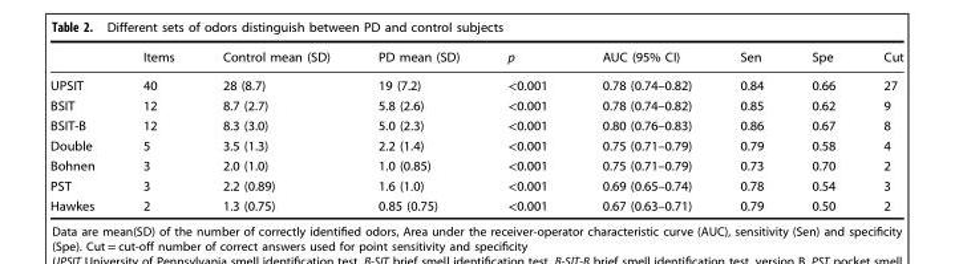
<table><thead><tr><td></td><td>Items</td><td>Control mean (SD)</td><td>PD mean (SD)</td><td>p</td><td>AUC (95% CI)</td><td>Sen</td><td>Spe</td><td>Cut</td></tr></thead><tbody><tr><td>UPSIT</td><td>40</td><td>28 (8.7)</td><td>19 (7.2)</td><td>&lt;0.001</td><td>0.78 (0.74–0.82)</td><td>0.84</td><td>0.66</td><td>27</td></tr><tr><td>BSIT</td><td>12</td><td>8.7 (2.7)</td><td>5.8 (2.6)</td><td>&lt;0.001</td><td>0.78 (0.74–0.82)</td><td>0.85</td><td>0.62</td><td>9</td></tr><tr><td>BSIT-B</td><td>12</td><td>8.3 (3.0)</td><td>5.0 (2.3)</td><td>&lt;0.001</td><td>0.80 (0.76–0.83)</td><td>0.86</td><td>0.67</td><td>8</td></tr><tr><td>Double</td><td>5</td><td>3.5 (1.3)</td><td>2.2 (1.4)</td><td>&lt;0.001</td><td>0.75 (0.71–0.79)</td><td>0.79</td><td>0.58</td><td>4</td></tr><tr><td>Bohnen</td><td>3</td><td>2.0 (1.0)</td><td>1.0 (0.85)</td><td>&lt;0.001</td><td>0.75 (0.71–0.79)</td><td>0.73</td><td>0.70</td><td>2</td></tr><tr><td>PST</td><td>3</td><td>2.2 (0.89)</td><td>1.6 (1.0)</td><td>&lt;0.001</td><td>0.69 (0.65–0.74)</td><td>0.78</td><td>0.54</td><td>3</td></tr><tr><td>Hawkes</td><td>2</td><td>1.3 (0.75)</td><td>0.85 (0.75)</td><td>&lt;0.001</td><td>0.67 (0.63–0.71)</td><td>0.79</td><td>0.50</td><td>2</td></tr></tbody></table>